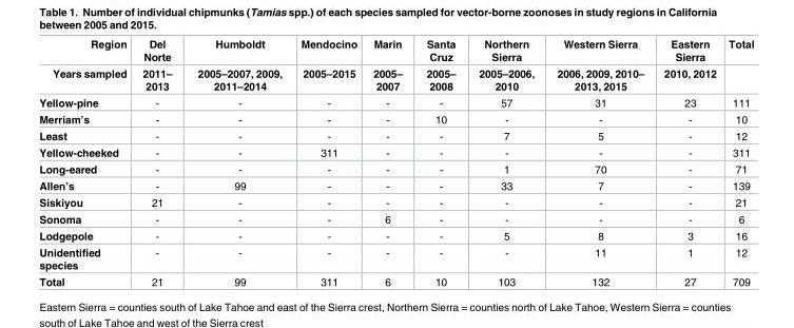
<table><thead><tr><td rowspan="2">Region Years sampled</td><td rowspan="2">Del Norte 2011– 2013</td><td rowspan="2">Humboldt 2005–2007, 2009, 2011–2014</td><td rowspan="2">Mendocino 2005–2015</td><td rowspan="2">Marin 2005– 2007</td><td rowspan="2">Santa Cruz 2005– 2008</td><td rowspan="2">Northern Sierra 2005–2006, 2010</td><td rowspan="2">Western Sierra 2006, 2009, 2010– 2013, 2015</td><td rowspan="2">Eastern Sierra 2010, 2012</td><td rowspan="2">Total</td></tr><tr></tr></thead><tbody><tr><td>Yellow-pine</td><td>-</td><td>-</td><td>-</td><td>-</td><td>-</td><td>57</td><td>31</td><td>23</td><td>111</td></tr><tr><td>Merriam’s</td><td>-</td><td>-</td><td>-</td><td>-</td><td>10</td><td>-</td><td>-</td><td>-</td><td>10</td></tr><tr><td>Least</td><td>-</td><td>-</td><td>-</td><td>-</td><td>-</td><td>7</td><td>5</td><td>-</td><td>12</td></tr><tr><td>Yellow-cheeked</td><td>-</td><td>-</td><td>311</td><td>-</td><td>-</td><td>-</td><td>-</td><td>-</td><td>311</td></tr><tr><td>Long-eared</td><td>-</td><td>-</td><td>-</td><td>-</td><td>-</td><td>1</td><td>70</td><td>-</td><td>71</td></tr><tr><td>Allen’s</td><td>-</td><td>99</td><td>-</td><td>-</td><td>-</td><td>33</td><td>7</td><td>-</td><td>139</td></tr><tr><td>Siskiyou</td><td>21</td><td>-</td><td>-</td><td>-</td><td>-</td><td>-</td><td>-</td><td>-</td><td>21</td></tr><tr><td>Sonoma</td><td>-</td><td>-</td><td>-</td><td>6</td><td>-</td><td>-</td><td>-</td><td>-</td><td>6</td></tr><tr><td>Lodgepole</td><td>-</td><td>-</td><td>-</td><td>-</td><td>-</td><td>5</td><td>8</td><td>3</td><td>16</td></tr><tr><td>Unidentified species</td><td>-</td><td>-</td><td>-</td><td>-</td><td>-</td><td>-</td><td>11</td><td>1</td><td>12</td></tr><tr><td>Total</td><td>21</td><td>99</td><td>311</td><td>6</td><td>10</td><td>103</td><td>132</td><td>27</td><td>709</td></tr></tbody></table>